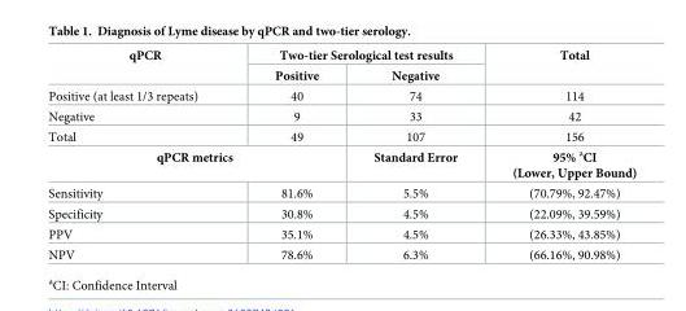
<table><thead><tr><td rowspan="2">qPCR</td><td colspan="2">Two-tier Serological test results</td><td rowspan="2">Total</td></tr><tr><td>Positive</td><td>Negative</td></tr></thead><tbody><tr><td>Positive (at least 1/3 repeats)</td><td>40</td><td>74</td><td>114</td></tr><tr><td>Negative</td><td>9</td><td>33</td><td>42</td></tr><tr><td>Total</td><td>49</td><td>107</td><td>156</td></tr><tr><td colspan="2">qPCR metrics</td><td>Standard Error</td><td>95% <sup>a</sup>CI (Lower, Upper Bound)</td></tr><tr><td>Sensitivity</td><td>81.6%</td><td>5.5%</td><td>(70.79%, 92.47%)</td></tr><tr><td>Specificity</td><td>30.8%</td><td>4.5%</td><td>(22.09%, 39.59%)</td></tr><tr><td>PPV</td><td>35.1%</td><td>4.5%</td><td>(26.33%, 43.85%)</td></tr><tr><td>NPV</td><td>78.6%</td><td>6.3%</td><td>(66.16%, 90.98%)</td></tr></tbody></table>